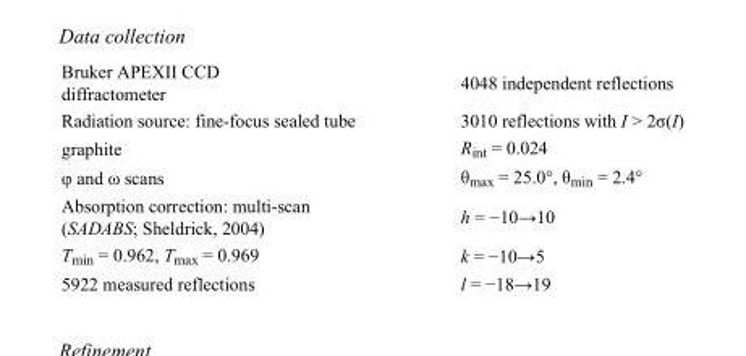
<table><tbody><tr><td>Bruker APEXII CCD diffractometer</td><td>4048 independent reflections</td></tr><tr><td>Radiation source: fine-focus sealed tube</td><td>3010 reflections with I &gt; 2σ(I)</td></tr><tr><td>graphite</td><td>R<sub>int</sub> = 0.024</td></tr><tr><td>φ and ω scans</td><td>θ<sub>max</sub> = 25.0°, θ<sub>min</sub> = 2.4°</td></tr><tr><td>Absorption correction: multi-scan (SADABS; Sheldrick, 2004)</td><td>h = −10→10</td></tr><tr><td>T<sub>min</sub> = 0.962, T<sub>max</sub> = 0.969</td><td>k = −10→5</td></tr><tr><td>5922 measured reflections</td><td>l = −18→19</td></tr></tbody></table>